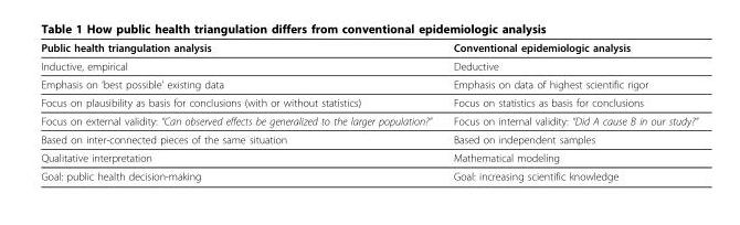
<table><thead><tr><td>Public health triangulation analysis</td><td>Conventional epidemiologic analysis</td></tr></thead><tbody><tr><td>Inductive, empirical</td><td>Deductive</td></tr><tr><td>Emphasis on ‘best possible’ existing data</td><td>Emphasis on data of highest scientific rigor</td></tr><tr><td>Focus on plausibility as basis for conclusions (with or without statistics)</td><td>Focus on statistics as basis for conclusions</td></tr><tr><td>Focus on external validity: “Can observed effects be generalized to the larger population?”</td><td>Focus on internal validity: “Did A cause B in our study?”</td></tr><tr><td>Based on inter-connected pieces of the same situation</td><td>Based on independent samples</td></tr><tr><td>Qualitative interpretation</td><td>Mathematical modeling</td></tr><tr><td>Goal: public health decision-making</td><td>Goal: increasing scientific knowledge</td></tr></tbody></table>